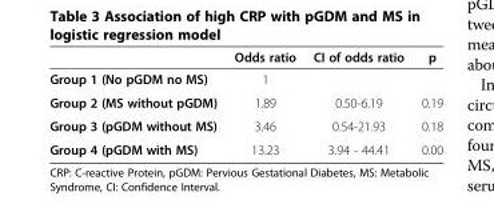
<table><thead><tr><td></td><td>Odds ratio</td><td>CI of odds ratio</td><td>p</td></tr></thead><tbody><tr><td>Group 1 (No pGDM no MS)</td><td>1</td><td></td><td></td></tr><tr><td>Group 2 (MS without pGDM)</td><td>1.89</td><td>0.50-6.19</td><td>0.19</td></tr><tr><td>Group 3 (pGDM without MS)</td><td>3.46</td><td>0.54-21.93</td><td>0.18</td></tr><tr><td>Group 4 (pGDM with MS)</td><td>13.23</td><td>3.94 - 44.41</td><td>0.00</td></tr></tbody></table>